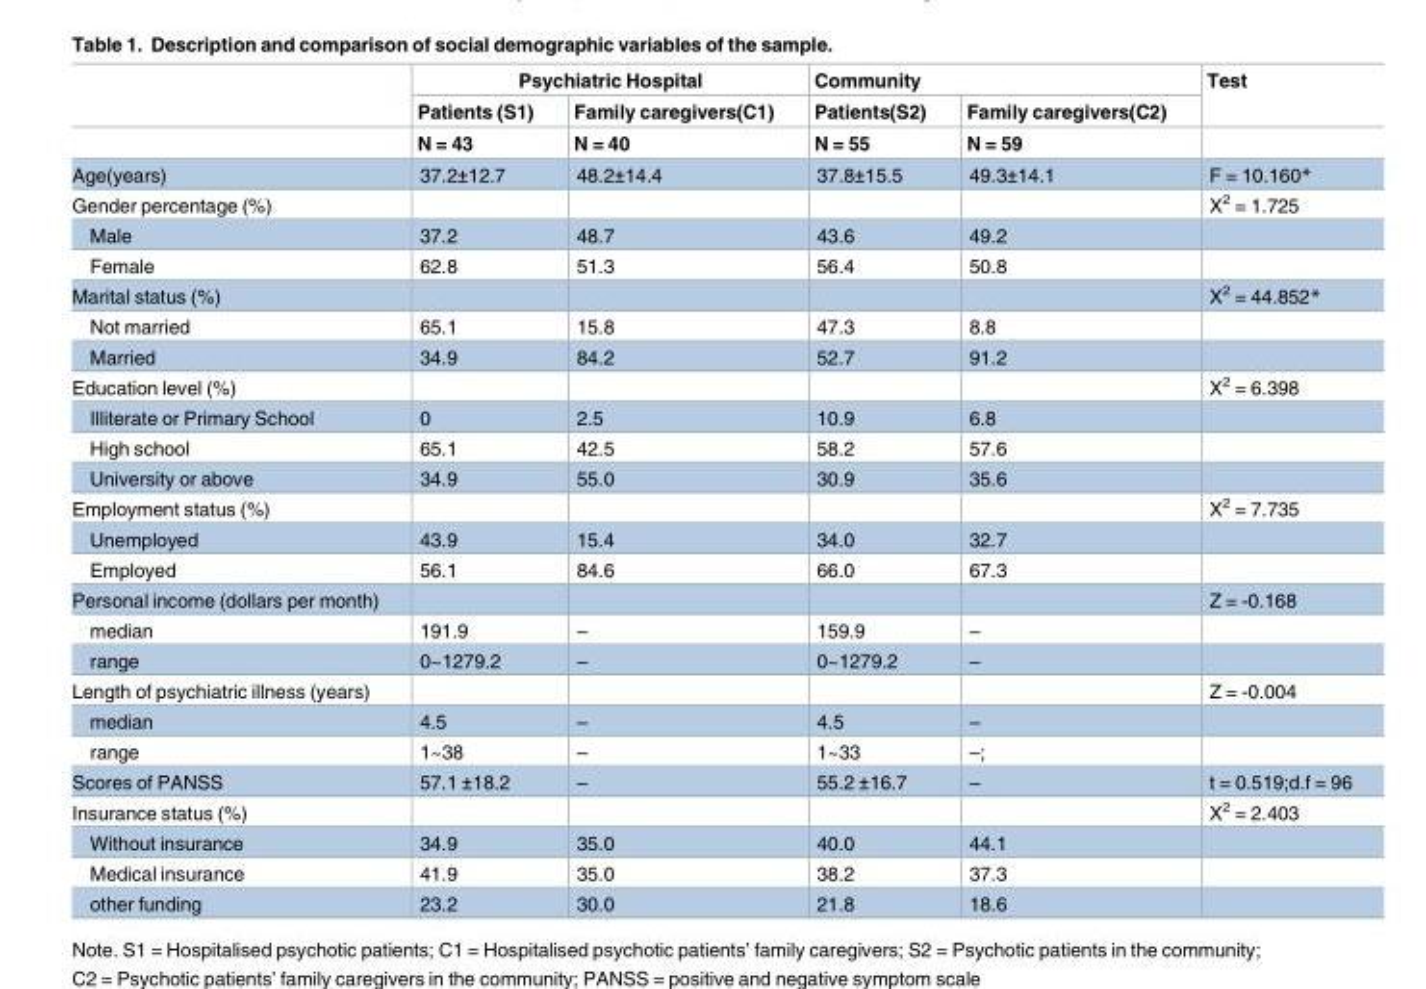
<table><thead><tr><td rowspan="3"></td><td colspan="2">Psychiatric Hospital</td><td colspan="2">Community</td><td rowspan="3">Test</td></tr><tr><td rowspan="2">Patients (S1) N = 43</td><td rowspan="2">Family caregivers(C1) N = 40</td><td rowspan="2">Patients(S2) N = 55</td><td rowspan="2">Family caregivers(C2) N = 59</td></tr><tr></tr></thead><tbody><tr><td>Age(years)</td><td>37.2±12.7</td><td>48.2±14.4</td><td>37.8±15.5</td><td>49.3±14.1</td><td>F = 10.160*</td></tr><tr><td>Gender percentage (%)</td><td></td><td></td><td></td><td></td><td>X<sup>2</sup> = 1.725</td></tr><tr><td>Male</td><td>37.2</td><td>48.7</td><td>43.6</td><td>49.2</td><td></td></tr><tr><td>Female</td><td>62.8</td><td>51.3</td><td>56.4</td><td>50.8</td><td></td></tr><tr><td>Marital status (%)</td><td></td><td></td><td></td><td></td><td>X<sup>2</sup> = 44.852*</td></tr><tr><td>Not married</td><td>65.1</td><td>15.8</td><td>47.3</td><td>8.8</td><td></td></tr><tr><td>Married</td><td>34.9</td><td>84.2</td><td>52.7</td><td>91.2</td><td></td></tr><tr><td>Education level (%)</td><td></td><td></td><td></td><td></td><td>X<sup>2</sup> = 6.398</td></tr><tr><td>Illiterate or Primary School</td><td>0</td><td>2.5</td><td>10.9</td><td>6.8</td><td></td></tr><tr><td>High school</td><td>65.1</td><td>42.5</td><td>58.2</td><td>57.6</td><td></td></tr><tr><td>University or above</td><td>34.9</td><td>55.0</td><td>30.9</td><td>35.6</td><td></td></tr><tr><td>Employment status (%)</td><td></td><td></td><td></td><td></td><td>X<sup>2</sup> = 7.735</td></tr><tr><td>Unemployed</td><td>43.9</td><td>15.4</td><td>34.0</td><td>32.7</td><td></td></tr><tr><td>Employed</td><td>56.1</td><td>84.6</td><td>66.0</td><td>67.3</td><td></td></tr><tr><td>Personal income (dollars per month)</td><td></td><td></td><td></td><td></td><td>Z = -0.168</td></tr><tr><td>median</td><td>191.9</td><td>–</td><td>159.9</td><td>–</td><td></td></tr><tr><td>range</td><td>0~1279.2</td><td>–</td><td>0~1279.2</td><td>–</td><td></td></tr><tr><td>Length of psychiatric illness (years)</td><td></td><td></td><td></td><td></td><td>Z = -0.004</td></tr><tr><td>median</td><td>4.5</td><td>–</td><td>4.5</td><td>–</td><td></td></tr><tr><td>range</td><td>1~38</td><td>–</td><td>1~33</td><td>–;</td><td></td></tr><tr><td>Scores of PANSS</td><td>57.1 ±18.2</td><td>–</td><td>55.2 ±16.7</td><td>–</td><td>t = 0.519;d.f = 96</td></tr><tr><td>Insurance status (%)</td><td></td><td></td><td></td><td></td><td>X<sup>2</sup> = 2.403</td></tr><tr><td>Without insurance</td><td>34.9</td><td>35.0</td><td>40.0</td><td>44.1</td><td></td></tr><tr><td>Medical insurance</td><td>41.9</td><td>35.0</td><td>38.2</td><td>37.3</td><td></td></tr><tr><td>other funding</td><td>23.2</td><td>30.0</td><td>21.8</td><td>18.6</td><td></td></tr></tbody></table>